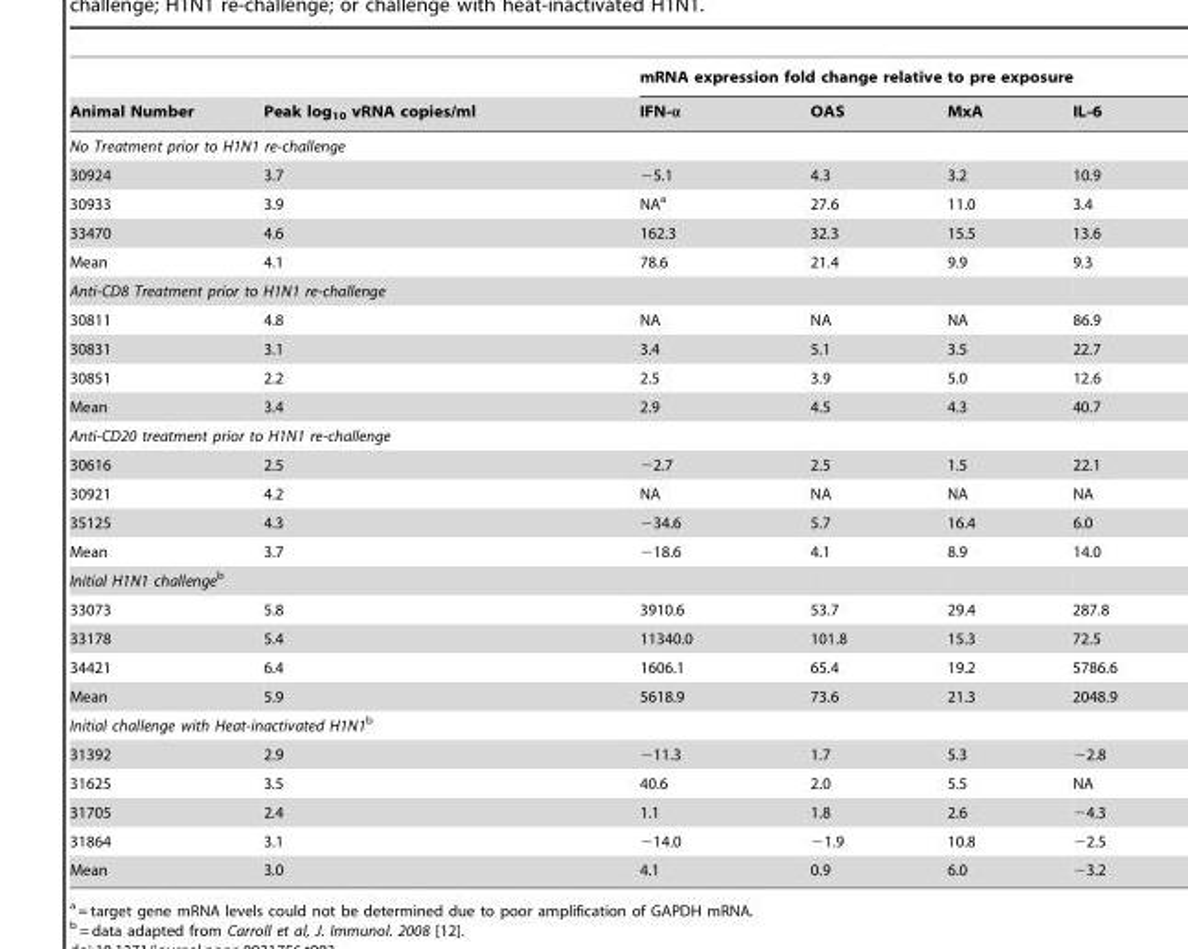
<table><thead><tr><td rowspan="2">Animal Number</td><td rowspan="2">Peak log<sub>10</sub> vRNA copies/ml</td><td colspan="4">mRNA expression fold change relative to pre exposure</td></tr><tr><td>IFN-α</td><td>OAS</td><td>MxA</td><td>IL-6</td></tr></thead><tbody><tr><td colspan="6">No Treatment prior to H1N1 re-challenge</td></tr><tr><td>30924</td><td>3.7</td><td>−5.1</td><td>4.3</td><td>3.2</td><td>10.9</td></tr><tr><td>30933</td><td>3.9</td><td>NA<sup>a</sup></td><td>27.6</td><td>11.0</td><td>3.4</td></tr><tr><td>33470</td><td>4.6</td><td>162.3</td><td>32.3</td><td>15.5</td><td>13.6</td></tr><tr><td>Mean</td><td>4.1</td><td>78.6</td><td>21.4</td><td>9.9</td><td>9.3</td></tr><tr><td colspan="6">Anti-CD8 Treatment prior to H1N1 re-challenge</td></tr><tr><td>30811</td><td>4.8</td><td>NA</td><td>NA</td><td>NA</td><td>86.9</td></tr><tr><td>30831</td><td>3.1</td><td>3.4</td><td>5.1</td><td>3.5</td><td>22.7</td></tr><tr><td>30851</td><td>2.2</td><td>2.5</td><td>3.9</td><td>5.0</td><td>12.6</td></tr><tr><td>Mean</td><td>3.4</td><td>2.9</td><td>4.5</td><td>4.3</td><td>40.7</td></tr><tr><td colspan="6">Anti-CD20 treatment prior to H1N1 re-challenge</td></tr><tr><td>30616</td><td>2.5</td><td>−2.7</td><td>2.5</td><td>1.5</td><td>22.1</td></tr><tr><td>30921</td><td>4.2</td><td>NA</td><td>NA</td><td>NA</td><td>NA</td></tr><tr><td>35125</td><td>4.3</td><td>−34.6</td><td>5.7</td><td>16.4</td><td>6.0</td></tr><tr><td>Mean</td><td>3.7</td><td>−18.6</td><td>4.1</td><td>8.9</td><td>14.0</td></tr><tr><td colspan="6">Initial H1N1 challengeb</td></tr><tr><td>33073</td><td>5.8</td><td>3910.6</td><td>53.7</td><td>29.4</td><td>287.8</td></tr><tr><td>33178</td><td>5.4</td><td>11340.0</td><td>101.8</td><td>15.3</td><td>72.5</td></tr><tr><td>34421</td><td>6.4</td><td>1606.1</td><td>65.4</td><td>19.2</td><td>5786.6</td></tr><tr><td>Mean</td><td>5.9</td><td>5618.9</td><td>73.6</td><td>21.3</td><td>2048.9</td></tr><tr><td colspan="6">Initial challenge with Heat-inactivated H1N1b</td></tr><tr><td>31392</td><td>2.9</td><td>−11.3</td><td>1.7</td><td>5.3</td><td>−2.8</td></tr><tr><td>31625</td><td>3.5</td><td>40.6</td><td>2.0</td><td>5.5</td><td>NA</td></tr><tr><td>31705</td><td>2.4</td><td>1.1</td><td>1.8</td><td>2.6</td><td>−4.3</td></tr><tr><td>31864</td><td>3.1</td><td>−14.0</td><td>−1.9</td><td>10.8</td><td>−2.5</td></tr><tr><td>Mean</td><td>3.0</td><td>4.1</td><td>0.9</td><td>6.0</td><td>−3.2</td></tr></tbody></table>